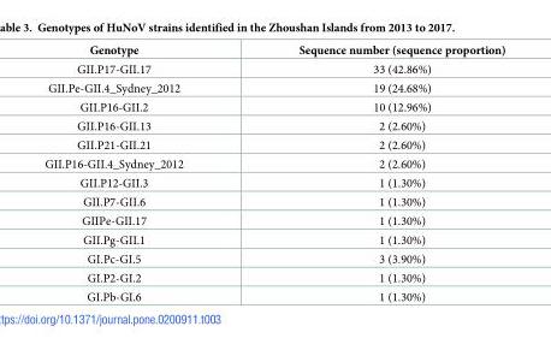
<table><thead><tr><td>Genotype</td><td>Sequence number (sequence proportion)</td></tr></thead><tbody><tr><td>GII.P17-GII.17</td><td>33 (42.86%)</td></tr><tr><td>GII.Pe-GII.4_Sydney_2012</td><td>19 (24.68%)</td></tr><tr><td>GII.P16-GII.2</td><td>10 (12.96%)</td></tr><tr><td>GII.P16-GII.13</td><td>2 (2.60%)</td></tr><tr><td>GII.P21-GII.21</td><td>2 (2.60%)</td></tr><tr><td>GII.P16-GII.4_Sydney_2012</td><td>2 (2.60%)</td></tr><tr><td>GII.P12-GII.3</td><td>1 (1.30%)</td></tr><tr><td>GII.P7-GII.6</td><td>1 (1.30%)</td></tr><tr><td>GIIPe-GII.17</td><td>1 (1.30%)</td></tr><tr><td>GII.Pg-GII.1</td><td>1 (1.30%)</td></tr><tr><td>GI.Pc-GI.5</td><td>3 (3.90%)</td></tr><tr><td>GI.P2-GI.2</td><td>1 (1.30%)</td></tr><tr><td>GI.Pb-GI.6</td><td>1 (1.30%)</td></tr></tbody></table>